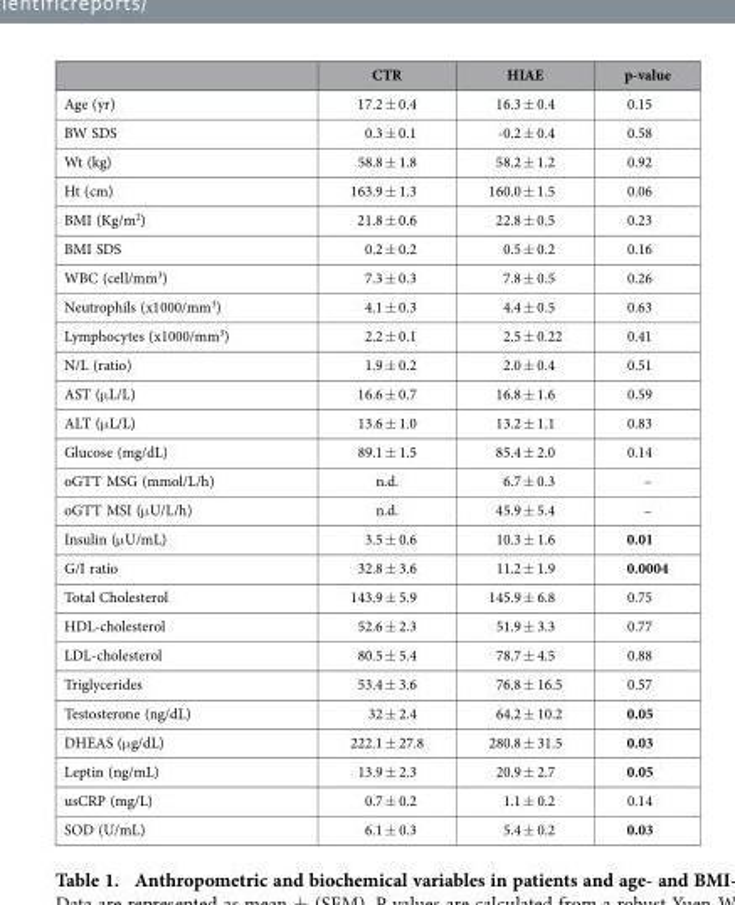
<table><thead><tr><td></td><td>CTR</td><td>HIAE</td><td>p-value</td></tr></thead><tbody><tr><td>Age (yr)</td><td>17.2 ± 0.4</td><td>16.3 ± 0.4</td><td>0.15</td></tr><tr><td>BW SDS</td><td>0.3 ± 0.1</td><td>-0.2 ± 0.4</td><td>0.58</td></tr><tr><td>Wt (kg)</td><td>58.8 ± 1.8</td><td>58.2 ± 1.2</td><td>0.92</td></tr><tr><td>Ht (cm)</td><td>163.9 ± 1.3</td><td>160.0 ± 1.5</td><td>0.06</td></tr><tr><td>BMI (Kg/m<sup>2</sup>)</td><td>21.8 ± 0.6</td><td>22.8 ± 0.5</td><td>0.23</td></tr><tr><td>BMI SDS</td><td>0.2 ± 0.2</td><td>0.5 ± 0.2</td><td>0.16</td></tr><tr><td>WBC (cell/mm<sup>3</sup>)</td><td>7.3 ± 0.3</td><td>7.8 ± 0.5</td><td>0.26</td></tr><tr><td>Neutrophils (x1000/mm<sup>3</sup>)</td><td>4.1 ± 0.3</td><td>4.4 ± 0.5</td><td>0.63</td></tr><tr><td>Lymphocytes (x1000/mm<sup>3</sup>)</td><td>2.2 ± 0.1</td><td>2.5 ± 0.22</td><td>0.41</td></tr><tr><td>N/L (ratio)</td><td>1.9 ± 0.2</td><td>2.0 ± 0.4</td><td>0.51</td></tr><tr><td>AST (μ L/L)</td><td>16.6 ± 0.7</td><td>16.8 ± 1.6</td><td>0.59</td></tr><tr><td>ALT (μ L/L)</td><td>13.6 ± 1.0</td><td>13.2 ± 1.1</td><td>0.83</td></tr><tr><td>Glucose (mg/dL)</td><td>89.1 ± 1.5</td><td>85.4 ± 2.0</td><td>0.14</td></tr><tr><td>oGTT MSG (mmol/L/h)</td><td>n.d.</td><td>6.7 ± 0.3</td><td>–</td></tr><tr><td>oGTT MSI (μ U/L/h)</td><td>n.d.</td><td>45.9 ± 5.4</td><td>–</td></tr><tr><td>Insulin (μ U/mL)</td><td>3.5 ± 0.6</td><td>10.3 ± 1.6</td><td>0.01</td></tr><tr><td>G/I ratio</td><td>32.8 ± 3.6</td><td>11.2 ± 1.9</td><td>0.0004</td></tr><tr><td>Total Cholesterol</td><td>143.9 ± 5.9</td><td>145.9 ± 6.8</td><td>0.75</td></tr><tr><td>HDL-cholesterol</td><td>52.6 ± 2.3</td><td>51.9 ± 3.3</td><td>0.77</td></tr><tr><td>LDL-cholesterol</td><td>80.5 ± 5.4</td><td>78.7 ± 4.5</td><td>0.88</td></tr><tr><td>Triglycerides</td><td>53.4 ± 3.6</td><td>76.8 ± 16.5</td><td>0.57</td></tr><tr><td>Testosterone (ng/dL)</td><td>32 ± 2.4</td><td>64.2 ± 10.2</td><td>0.05</td></tr><tr><td>DHEAS (μ g/dL)</td><td>222.1 ± 27.8</td><td>280.8 ± 31.5</td><td>0.03</td></tr><tr><td>Leptin (ng/mL)</td><td>13.9 ± 2.3</td><td>20.9 ± 2.7</td><td>0.05</td></tr><tr><td>usCRP (mg/L)</td><td>0.7 ± 0.2</td><td>1.1 ± 0.2</td><td>0.14</td></tr><tr><td>SOD (U/mL)</td><td>6.1 ± 0.3</td><td>5.4 ± 0.2</td><td>0.03</td></tr></tbody></table>